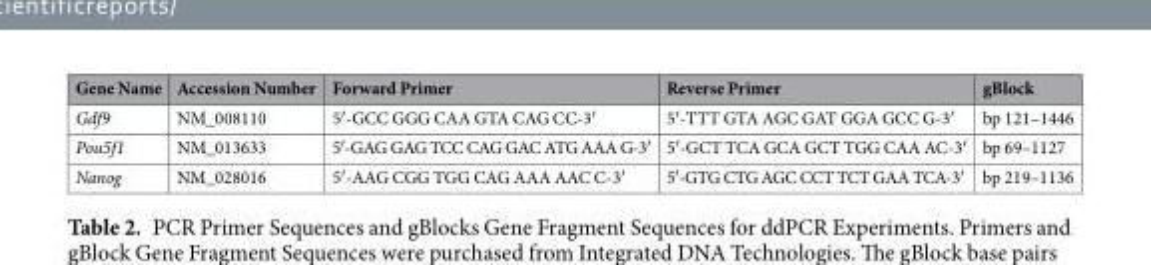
<table><thead><tr><td>Gene Name</td><td>Accession Number</td><td>Forward Primer</td><td>Reverse Primer</td><td>gBlock</td></tr></thead><tbody><tr><td>Gdf9</td><td>NM_008110</td><td>5′-GCC GGG CAA GTA CAG CC-3′</td><td>5′-TTT GTA AGC GAT GGA GCC G-3′</td><td>bp 121–1446</td></tr><tr><td>Pou5f1</td><td>NM_013633</td><td>5′-GAG GAG TCC CAG GAC ATG AAA G-3′</td><td>5′-GCT TCA GCA GCT TGG CAA AC-3′</td><td>bp 69–1127</td></tr><tr><td>Nanog</td><td>NM_028016</td><td>5′-AAG CGG TGG CAG AAA AAC C-3′</td><td>5′-GTG CTG AGC CCT TCT GAA TCA-3′</td><td>bp 219–1136</td></tr></tbody></table>